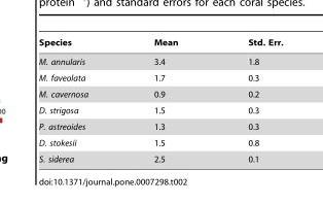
<table><thead><tr><td>Species</td><td>Mean</td><td>Std. Err.</td></tr></thead><tbody><tr><td>M. annularis</td><td>3.4</td><td>1.8</td></tr><tr><td>M. faveolata</td><td>1.7</td><td>0.3</td></tr><tr><td>M. cavernosa</td><td>0.9</td><td>0.2</td></tr><tr><td>D. strigosa</td><td>1.5</td><td>0.3</td></tr><tr><td>P. astreoides</td><td>1.3</td><td>0.3</td></tr><tr><td>D. stokesii</td><td>1.5</td><td>0.8</td></tr><tr><td>S. siderea</td><td>2.5</td><td>0.1</td></tr></tbody></table>